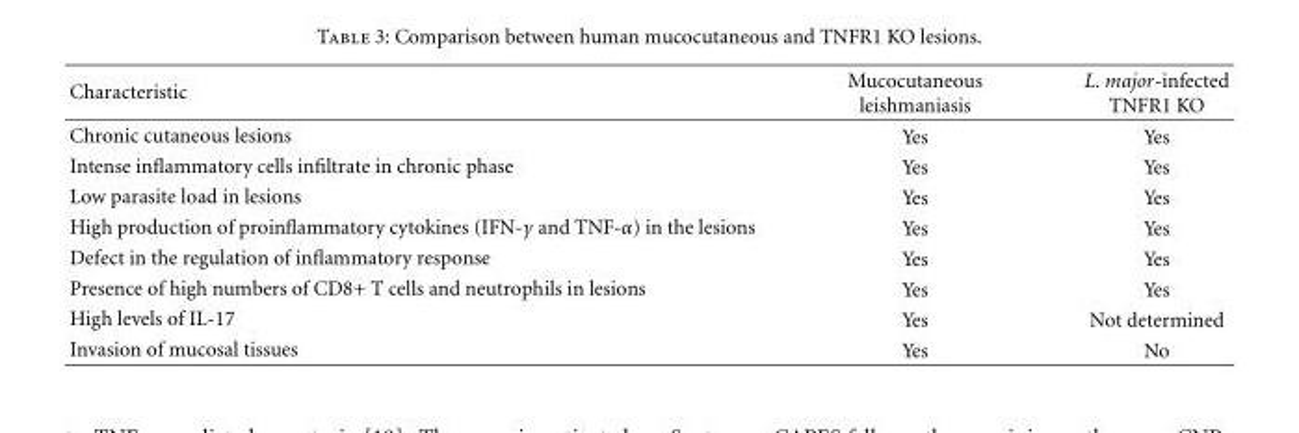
<table><thead><tr><td>Characteristic</td><td>Mucocutaneous leishmaniasis</td><td>L. major-infected TNFR1 KO</td></tr></thead><tbody><tr><td>Chronic cutaneous lesions</td><td>Yes</td><td>Yes</td></tr><tr><td>Intense inflammatory cells infiltrate in chronic phase</td><td>Yes</td><td>Yes</td></tr><tr><td>Low parasite load in lesions</td><td>Yes</td><td>Yes</td></tr><tr><td>High production of proinflammatory cytokines (IFN-γ and TNF-α) in the lesions</td><td>Yes</td><td>Yes</td></tr><tr><td>Defect in the regulation of inflammatory response</td><td>Yes</td><td>Yes</td></tr><tr><td>Presence of high numbers of CD8+ T cells and neutrophils in lesions</td><td>Yes</td><td>Yes</td></tr><tr><td>High levels of IL-17</td><td>Yes</td><td>Not determined</td></tr><tr><td>Invasion of mucosal tissues</td><td>Yes</td><td>No</td></tr></tbody></table>